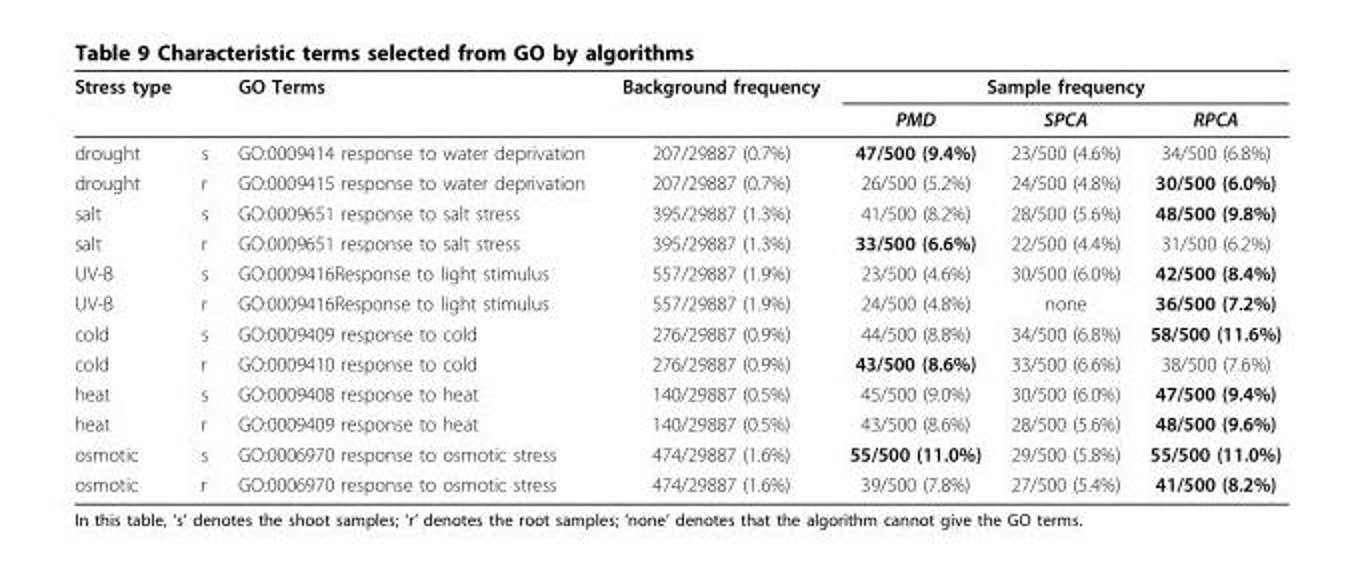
<table><thead><tr><td rowspan="2">Stress type</td><td rowspan="2"></td><td rowspan="2">GO Terms</td><td rowspan="2">Background frequency</td><td colspan="3">Sample frequency</td></tr><tr><td>PMD</td><td>SPCA</td><td>RPCA</td></tr></thead><tbody><tr><td>drought</td><td>s</td><td>GO:0009414 response to water deprivation</td><td>207/29887 (0.7%)</td><td>47/500 (9.4%)</td><td>23/500 (4.6%)</td><td>34/500 (6.8%)</td></tr><tr><td>drought</td><td>r</td><td>GO:0009415 response to water deprivation</td><td>207/29887 (0.7%)</td><td>26/500 (5.2%)</td><td>24/500 (4.8%)</td><td>30/500 (6.0%)</td></tr><tr><td>salt</td><td>s</td><td>GO:0009651 response to salt stress</td><td>395/29887 (1.3%)</td><td>41/500 (8.2%)</td><td>28/500 (5.6%)</td><td>48/500 (9.8%)</td></tr><tr><td>salt</td><td>r</td><td>GO:0009651 response to salt stress</td><td>395/29887 (1.3%)</td><td>33/500 (6.6%)</td><td>22/500 (4.4%)</td><td>31/500 (6.2%)</td></tr><tr><td>UV-B</td><td>s</td><td>GO:0009416Response to light stimulus</td><td>557/29887 (1.9%)</td><td>23/500 (4.6%)</td><td>30/500 (6.0%)</td><td>42/500 (8.4%)</td></tr><tr><td>UV-B</td><td>r</td><td>GO:0009416Response to light stimulus</td><td>557/29887 (1.9%)</td><td>24/500 (4.8%)</td><td>none</td><td>36/500 (7.2%)</td></tr><tr><td>cold</td><td>s</td><td>GO:0009409 response to cold</td><td>276/29887 (0.9%)</td><td>44/500 (8.8%)</td><td>34/500 (6.8%)</td><td>58/500 (11.6%)</td></tr><tr><td>cold</td><td>r</td><td>GO:0009410 response to cold</td><td>276/29887 (0.9%)</td><td>43/500 (8.6%)</td><td>33/500 (6.6%)</td><td>38/500 (7.6%)</td></tr><tr><td>heat</td><td>s</td><td>GO:0009408 response to heat</td><td>140/29887 (0.5%)</td><td>45/500 (9.0%)</td><td>30/500 (6.0%)</td><td>47/500 (9.4%)</td></tr><tr><td>heat</td><td>r</td><td>GO:0009409 response to heat</td><td>140/29887 (0.5%)</td><td>43/500 (8.6%)</td><td>28/500 (5.6%)</td><td>48/500 (9.6%)</td></tr><tr><td>osmotic</td><td>s</td><td>GO:0006970 response to osmotic stress</td><td>474/29887 (1.6%)</td><td>55/500 (11.0%)</td><td>29/500 (5.8%)</td><td>55/500 (11.0%)</td></tr><tr><td>osmotic</td><td>r</td><td>GO:0006970 response to osmotic stress</td><td>474/29887 (1.6%)</td><td>39/500 (7.8%)</td><td>27/500 (5.4%)</td><td>41/500 (8.2%)</td></tr></tbody></table>